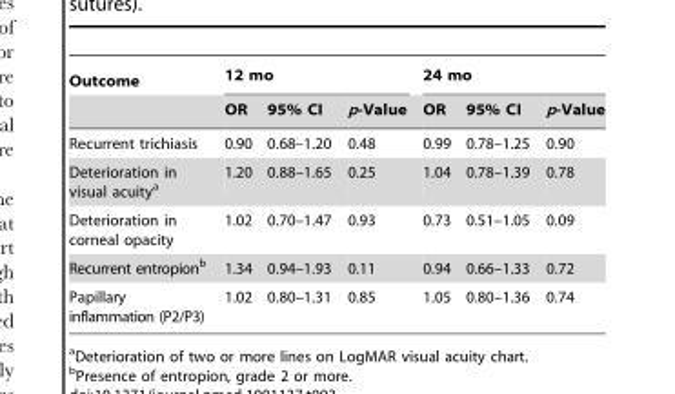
<table><thead><tr><td rowspan="2">Outcome</td><td colspan="3">12 mo</td><td colspan="3">24 mo</td></tr><tr><td>OR</td><td>95% CI</td><td>p-Value</td><td>OR</td><td>95% CI</td><td>p-Value</td></tr></thead><tbody><tr><td>Recurrent trichiasis</td><td>0.90</td><td>0.68–1.20</td><td>0.48</td><td>0.99</td><td>0.78–1.25</td><td>0.90</td></tr><tr><td>Deterioration in visual acuity<sup>a</sup></td><td>1.20</td><td>0.88–1.65</td><td>0.25</td><td>1.04</td><td>0.78–1.39</td><td>0.78</td></tr><tr><td>Deterioration in corneal opacity</td><td>1.02</td><td>0.70–1.47</td><td>0.93</td><td>0.73</td><td>0.51–1.05</td><td>0.09</td></tr><tr><td>Recurrent entropion<sup>b</sup></td><td>1.34</td><td>0.94–1.93</td><td>0.11</td><td>0.94</td><td>0.66–1.33</td><td>0.72</td></tr><tr><td>Papillary inflammation (P2/P3)</td><td>1.02</td><td>0.80–1.31</td><td>0.85</td><td>1.05</td><td>0.80–1.36</td><td>0.74</td></tr></tbody></table>